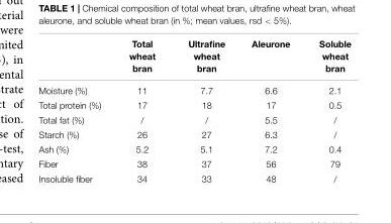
<table><thead><tr><td></td><td>Total wheat bran</td><td>Ultrafine wheat bran</td><td>Aleurone</td><td>Soluble wheat bran</td></tr></thead><tbody><tr><td>Moisture (%)</td><td>11</td><td>7.7</td><td>6.6</td><td>2.1</td></tr><tr><td>Total protein (%)</td><td>17</td><td>18</td><td>17</td><td>0.5</td></tr><tr><td>Total fat (%)</td><td>/</td><td>/</td><td>5.5</td><td>/</td></tr><tr><td>Starch (%)</td><td>26</td><td>27</td><td>6.3</td><td>/</td></tr><tr><td>Ash (%)</td><td>5.2</td><td>5.1</td><td>7.2</td><td>0.4</td></tr><tr><td>Fiber</td><td>38</td><td>37</td><td>56</td><td>79</td></tr><tr><td>Insoluble fiber</td><td>34</td><td>33</td><td>48</td><td>/</td></tr></tbody></table>